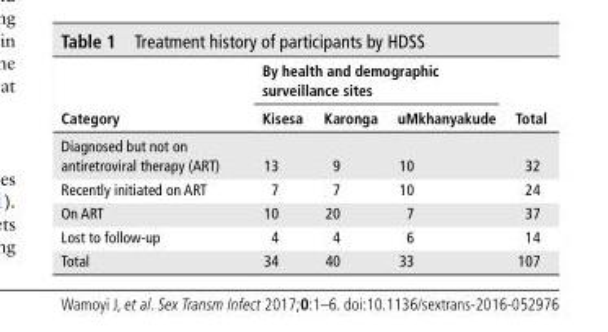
<table><thead><tr><td rowspan="2">category</td><td colspan="3">by health and demographic surveillance sites</td><td rowspan="2">total</td></tr><tr><td>kisesa</td><td>karonga</td><td>uMkhanyakude</td></tr></thead><tbody><tr><td>Diagnosed but not on antiretroviral therapy (ART)</td><td>13</td><td>9</td><td>10</td><td>32</td></tr><tr><td>Recently initiated on ART</td><td>7</td><td>7</td><td>10</td><td>24</td></tr><tr><td>On ART</td><td>10</td><td>20</td><td>7</td><td>37</td></tr><tr><td>Lost to follow-up</td><td>4</td><td>4</td><td>6</td><td>14</td></tr><tr><td>Total</td><td>34</td><td>40</td><td>33</td><td>107</td></tr></tbody></table>